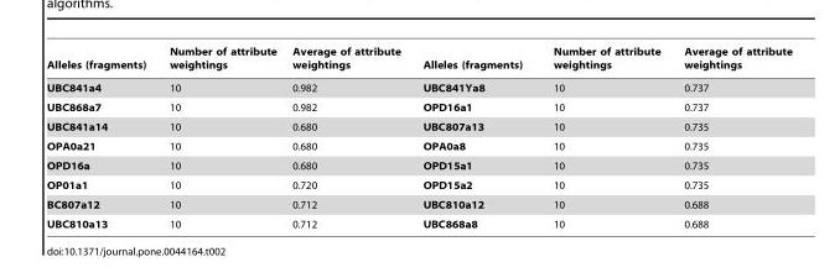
<table><thead><tr><td>Alleles (fragments)</td><td>Number of attribute weightings</td><td>Average of attribute weightings</td><td>Alleles (fragments)</td><td>Number of attribute weightings</td><td>Average of attribute weightings</td></tr></thead><tbody><tr><td>UBC841a4</td><td>10</td><td>0.982</td><td>UBC841Ya8</td><td>10</td><td>0.737</td></tr><tr><td>UBC868a7</td><td>10</td><td>0.982</td><td>OPD16a1</td><td>10</td><td>0.737</td></tr><tr><td>UBC841a14</td><td>10</td><td>0.680</td><td>UBC807a13</td><td>10</td><td>0.735</td></tr><tr><td>OPA0a21</td><td>10</td><td>0.680</td><td>OPA0a8</td><td>10</td><td>0.735</td></tr><tr><td>OPD16a</td><td>10</td><td>0.680</td><td>OPD15a1</td><td>10</td><td>0.735</td></tr><tr><td>OP01a1</td><td>10</td><td>0.720</td><td>OPD15a2</td><td>10</td><td>0.735</td></tr><tr><td>BC807a12</td><td>10</td><td>0.712</td><td>UBC810a12</td><td>10</td><td>0.688</td></tr><tr><td>UBC810a13</td><td>10</td><td>0.712</td><td>UBC868a8</td><td>10</td><td>0.688</td></tr></tbody></table>